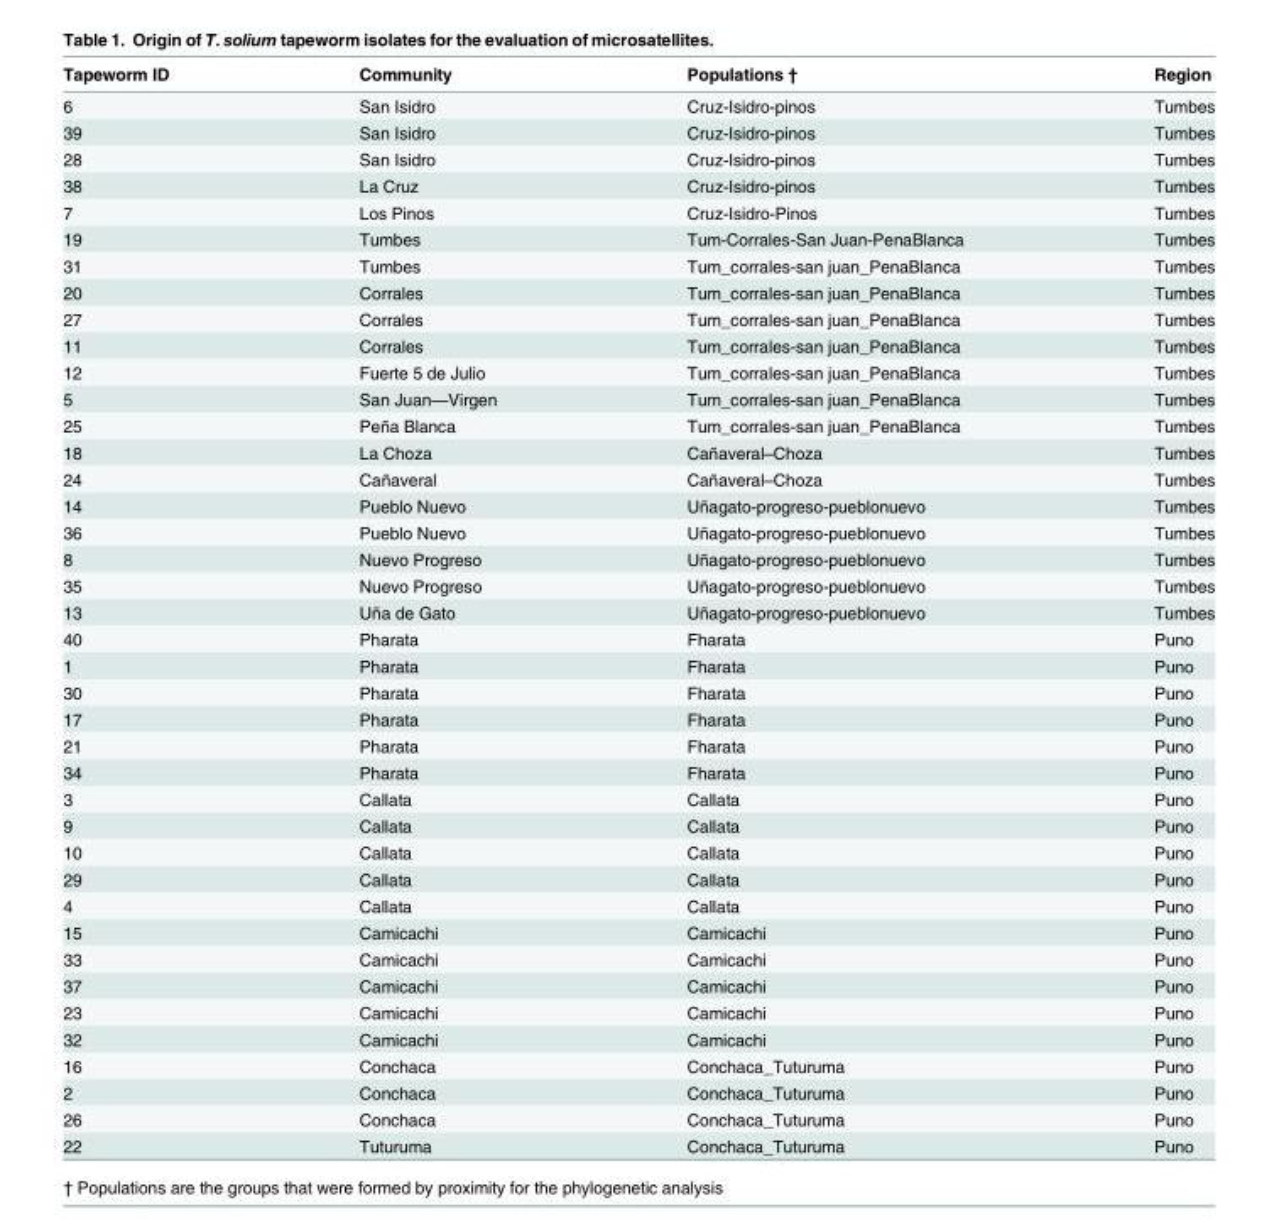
<table><thead><tr><td>Tapeworm ID</td><td>Community</td><td>Populations †</td><td>Region</td></tr></thead><tbody><tr><td>6</td><td>San Isidro</td><td>Cruz-Isidro-pinos</td><td>Tumbes</td></tr><tr><td>39</td><td>San Isidro</td><td>Cruz-Isidro-pinos</td><td>Tumbes</td></tr><tr><td>28</td><td>San Isidro</td><td>Cruz-Isidro-pinos</td><td>Tumbes</td></tr><tr><td>38</td><td>La Cruz</td><td>Cruz-Isidro-pinos</td><td>Tumbes</td></tr><tr><td>7</td><td>Los Pinos</td><td>Cruz-Isidro-Pinos</td><td>Tumbes</td></tr><tr><td>19</td><td>Tumbes</td><td>Tum-Corrales-San Juan-PenaBlanca</td><td>Tumbes</td></tr><tr><td>31</td><td>Tumbes</td><td>Tum_corrales-san juan_PenaBlanca</td><td>Tumbes</td></tr><tr><td>20</td><td>Corrales</td><td>Tum_corrales-san juan_PenaBlanca</td><td>Tumbes</td></tr><tr><td>27</td><td>Corrales</td><td>Tum_corrales-san juan_PenaBlanca</td><td>Tumbes</td></tr><tr><td>11</td><td>Corrales</td><td>Tum_corrales-san juan_PenaBlanca</td><td>Tumbes</td></tr><tr><td>12</td><td>Fuerte 5 de Julio</td><td>Tum_corrales-san juan_PenaBlanca</td><td>Tumbes</td></tr><tr><td>5</td><td>San Juan—Virgen</td><td>Tum_corrales-san juan_PenaBlanca</td><td>Tumbes</td></tr><tr><td>25</td><td>Peña Blanca</td><td>Tum_corrales-san juan_PenaBlanca</td><td>Tumbes</td></tr><tr><td>18</td><td>La Choza</td><td>Cañaveral–Choza</td><td>Tumbes</td></tr><tr><td>24</td><td>Cañaveral</td><td>Cañaveral–Choza</td><td>Tumbes</td></tr><tr><td>14</td><td>Pueblo Nuevo</td><td>Uñagato-progreso-pueblonuevo</td><td>Tumbes</td></tr><tr><td>36</td><td>Pueblo Nuevo</td><td>Uñagato-progreso-pueblonuevo</td><td>Tumbes</td></tr><tr><td>8</td><td>Nuevo Progreso</td><td>Uñagato-progreso-pueblonuevo</td><td>Tumbes</td></tr><tr><td>35</td><td>Nuevo Progreso</td><td>Uñagato-progreso-pueblonuevo</td><td>Tumbes</td></tr><tr><td>13</td><td>Uña de Gato</td><td>Uñagato-progreso-pueblonuevo</td><td>Tumbes</td></tr><tr><td>40</td><td>Pharata</td><td>Fharata</td><td>Puno</td></tr><tr><td>1</td><td>Pharata</td><td>Fharata</td><td>Puno</td></tr><tr><td>30</td><td>Pharata</td><td>Fharata</td><td>Puno</td></tr><tr><td>17</td><td>Pharata</td><td>Fharata</td><td>Puno</td></tr><tr><td>21</td><td>Pharata</td><td>Fharata</td><td>Puno</td></tr><tr><td>34</td><td>Pharata</td><td>Fharata</td><td>Puno</td></tr><tr><td>3</td><td>Callata</td><td>Callata</td><td>Puno</td></tr><tr><td>9</td><td>Callata</td><td>Callata</td><td>Puno</td></tr><tr><td>10</td><td>Callata</td><td>Callata</td><td>Puno</td></tr><tr><td>29</td><td>Callata</td><td>Callata</td><td>Puno</td></tr><tr><td>4</td><td>Callata</td><td>Callata</td><td>Puno</td></tr><tr><td>15</td><td>Camicachi</td><td>Camicachi</td><td>Puno</td></tr><tr><td>33</td><td>Camicachi</td><td>Camicachi</td><td>Puno</td></tr><tr><td>37</td><td>Camicachi</td><td>Camicachi</td><td>Puno</td></tr><tr><td>23</td><td>Camicachi</td><td>Camicachi</td><td>Puno</td></tr><tr><td>32</td><td>Camicachi</td><td>Camicachi</td><td>Puno</td></tr><tr><td>16</td><td>Conchaca</td><td>Conchaca_Tuturuma</td><td>Puno</td></tr><tr><td>2</td><td>Conchaca</td><td>Conchaca_Tuturuma</td><td>Puno</td></tr><tr><td>26</td><td>Conchaca</td><td>Conchaca_Tuturuma</td><td>Puno</td></tr><tr><td>22</td><td>Tuturuma</td><td>Conchaca_Tuturuma</td><td>Puno</td></tr></tbody></table>